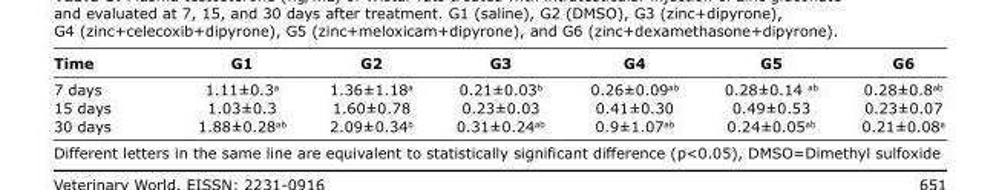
<table><thead><tr><td>Time</td><td>G1</td><td>G2</td><td>G3</td><td>G4</td><td>G5</td><td>G6</td></tr></thead><tbody><tr><td>7 days</td><td>1.11±0.3<sup>a</sup></td><td>1.36±1.18<sup>a</sup></td><td>0.21±0.03<sup>b</sup></td><td>0.26±0.09<sup>ab</sup></td><td>0.28±0.14 <sup>ab</sup></td><td>0.28±0.8<sup>ab</sup></td></tr><tr><td>15 days</td><td>1.03±0.3</td><td>1.60±0.78</td><td>0.23±0.03</td><td>0.41±0.30</td><td>0.49±0.53</td><td>0.23±0.07</td></tr><tr><td>30 days</td><td>1.88±0.28<sup>ab</sup></td><td>2.09±0.34<sup>b</sup></td><td>0.31±0.24<sup>ab</sup></td><td>0.9±1.07<sup>ab</sup></td><td>0.24±0.05<sup>ab</sup></td><td>0.21±0.08<sup>a</sup></td></tr></tbody></table>